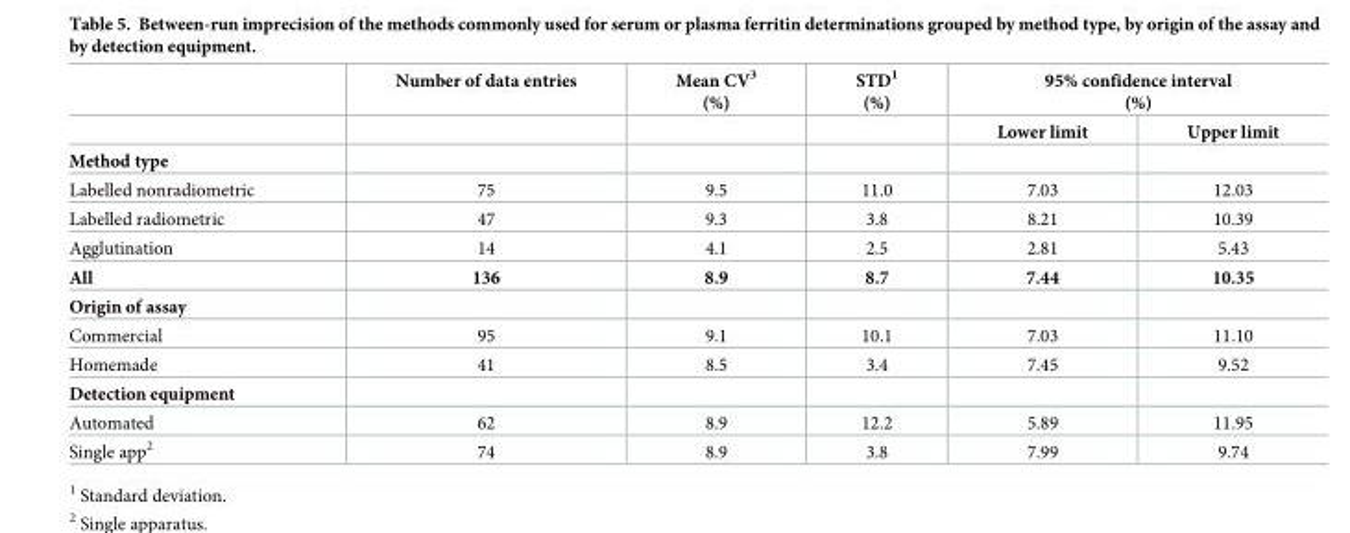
<table><thead><tr><td rowspan="2"></td><td rowspan="2">Number of data entries</td><td rowspan="2">Mean CV<sup>3</sup> (%)</td><td rowspan="2">STD<sup>1</sup> (%)</td><td colspan="2">95% confidence interval (%)</td></tr><tr><td>Lower limit</td><td>Upper limit</td></tr></thead><tbody><tr><td colspan="6">Method type</td></tr><tr><td>Labelled nonradiometric</td><td>75</td><td>9.5</td><td>11.0</td><td>7.03</td><td>12.03</td></tr><tr><td>Labelled radiometric</td><td>47</td><td>9.3</td><td>3.8</td><td>8.21</td><td>10.39</td></tr><tr><td>Agglutination</td><td>14</td><td>4.1</td><td>2.5</td><td>2.81</td><td>5.43</td></tr><tr><td>All</td><td>136</td><td>8.9</td><td>8.7</td><td>7.44</td><td>10.35</td></tr><tr><td colspan="6">Origin of assay</td></tr><tr><td>Commercial</td><td>95</td><td>9.1</td><td>10.1</td><td>7.03</td><td>11.10</td></tr><tr><td>Homemade</td><td>41</td><td>8.5</td><td>3.4</td><td>7.45</td><td>9.52</td></tr><tr><td colspan="6">Detection equipment</td></tr><tr><td>Automated</td><td>62</td><td>8.9</td><td>12.2</td><td>5.89</td><td>11.95</td></tr><tr><td>Single app<sup>2</sup></td><td>74</td><td>8.9</td><td>3.8</td><td>7.99</td><td>9.74</td></tr></tbody></table>